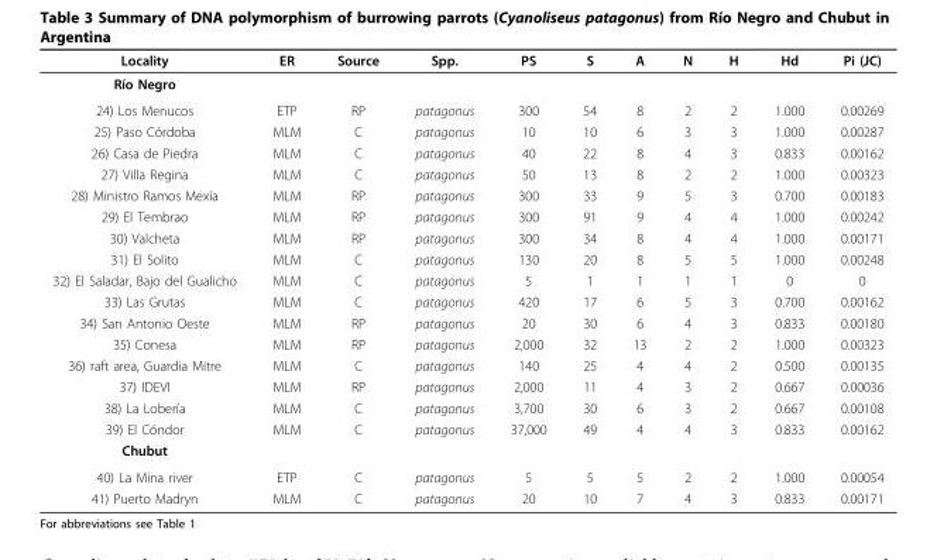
<table><thead><tr><td>Locality</td><td>ER</td><td>Source</td><td>Spp.</td><td>PS</td><td>S</td><td>A</td><td>N</td><td>H</td><td>Hd</td><td>Pi (JC)</td></tr></thead><tbody><tr><td colspan="11">Río Negro</td></tr><tr><td>24) Los Menucos</td><td>ETP</td><td>RP</td><td>patagonus</td><td>300</td><td>54</td><td>8</td><td>2</td><td>2</td><td>1.000</td><td>0.00269</td></tr><tr><td>25) Paso Córdoba</td><td>MLM</td><td>C</td><td>patagonus</td><td>10</td><td>10</td><td>6</td><td>3</td><td>3</td><td>1.000</td><td>0.00287</td></tr><tr><td>26) Casa de Piedra</td><td>MLM</td><td>C</td><td>patagonus</td><td>40</td><td>22</td><td>8</td><td>4</td><td>3</td><td>0.833</td><td>0.00162</td></tr><tr><td>27) Villa Regina</td><td>MLM</td><td>C</td><td>patagonus</td><td>50</td><td>13</td><td>8</td><td>2</td><td>2</td><td>1.000</td><td>0.00323</td></tr><tr><td>28) Ministro Ramos Mexía</td><td>MLM</td><td>RP</td><td>patagonus</td><td>300</td><td>33</td><td>9</td><td>5</td><td>3</td><td>0.700</td><td>0.00183</td></tr><tr><td>29) El Tembrao</td><td>MLM</td><td>RP</td><td>patagonus</td><td>300</td><td>91</td><td>9</td><td>4</td><td>4</td><td>1.000</td><td>0.00242</td></tr><tr><td>30) Valcheta</td><td>MLM</td><td>RP</td><td>patagonus</td><td>300</td><td>34</td><td>8</td><td>4</td><td>4</td><td>1.000</td><td>0.00171</td></tr><tr><td>31) El Solito</td><td>MLM</td><td>C</td><td>patagonus</td><td>130</td><td>20</td><td>8</td><td>5</td><td>5</td><td>1.000</td><td>0.00248</td></tr><tr><td>32) El Saladar, Bajo del Gualicho</td><td>MLM</td><td>C</td><td>patagonus</td><td>5</td><td>1</td><td>1</td><td>1</td><td>1</td><td>0</td><td>0</td></tr><tr><td>33) Las Grutas</td><td>MLM</td><td>C</td><td>patagonus</td><td>420</td><td>17</td><td>6</td><td>5</td><td>3</td><td>0.700</td><td>0.00162</td></tr><tr><td>34) San Antonio Oeste</td><td>MLM</td><td>RP</td><td>patagonus</td><td>20</td><td>30</td><td>6</td><td>4</td><td>3</td><td>0.833</td><td>0.00180</td></tr><tr><td>35) Conesa</td><td>MLM</td><td>RP</td><td>patagonus</td><td>2,000</td><td>32</td><td>13</td><td>2</td><td>2</td><td>1.000</td><td>0.00323</td></tr><tr><td>36) raft area, Guardia Mitre</td><td>MLM</td><td>C</td><td>patagonus</td><td>140</td><td>25</td><td>4</td><td>4</td><td>2</td><td>0.500</td><td>0.00135</td></tr><tr><td>37) IDEVI</td><td>MLM</td><td>RP</td><td>patagonus</td><td>2,000</td><td>11</td><td>4</td><td>3</td><td>2</td><td>0.667</td><td>0.00036</td></tr><tr><td>38) La Lobería</td><td>MLM</td><td>C</td><td>patagonus</td><td>3,700</td><td>30</td><td>6</td><td>3</td><td>2</td><td>0.667</td><td>0.00108</td></tr><tr><td>39) El Cóndor</td><td>MLM</td><td>C</td><td>patagonus</td><td>37,000</td><td>49</td><td>4</td><td>4</td><td>3</td><td>0.833</td><td>0.00162</td></tr><tr><td colspan="11">Chubut</td></tr><tr><td>40) La Mina river</td><td>ETP</td><td>C</td><td>patagonus</td><td>5</td><td>5</td><td>5</td><td>2</td><td>2</td><td>1.000</td><td>0.00054</td></tr><tr><td>41) Puerto Madryn</td><td>MLM</td><td>C</td><td>patagonus</td><td>20</td><td>10</td><td>7</td><td>4</td><td>3</td><td>0.833</td><td>0.00171</td></tr></tbody></table>